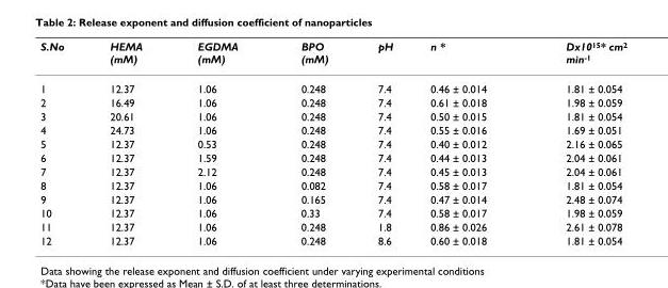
<table><thead><tr><td>S.No</td><td>HEMA (mM)</td><td>EGDMA (mM)</td><td>BPO (mM)</td><td>pH</td><td>n *</td><td>Dx10<sup>15</sup>* cm<sup>2</sup> min<sup>-1</sup></td></tr></thead><tbody><tr><td>1</td><td>12.37</td><td>1.06</td><td>0.248</td><td>7.4</td><td>0.46 ± 0.014</td><td>1.81 ± 0.054</td></tr><tr><td>2</td><td>16.49</td><td>1.06</td><td>0.248</td><td>7.4</td><td>0.61 ± 0.018</td><td>1.98 ± 0.059</td></tr><tr><td>3</td><td>20.61</td><td>1.06</td><td>0.248</td><td>7.4</td><td>0.50 ± 0.015</td><td>1.81 ± 0.054</td></tr><tr><td>4</td><td>24.73</td><td>1.06</td><td>0.248</td><td>7.4</td><td>0.55 ± 0.016</td><td>1.69 ± 0.051</td></tr><tr><td>5</td><td>12.37</td><td>0.53</td><td>0.248</td><td>7.4</td><td>0.40 ± 0.012</td><td>2.16 ± 0.065</td></tr><tr><td>6</td><td>12.37</td><td>1.59</td><td>0.248</td><td>7.4</td><td>0.44 ± 0.013</td><td>2.04 ± 0.061</td></tr><tr><td>7</td><td>12.37</td><td>2.12</td><td>0.248</td><td>7.4</td><td>0.45 ± 0.013</td><td>2.04 ± 0.061</td></tr><tr><td>8</td><td>12.37</td><td>1.06</td><td>0.082</td><td>7.4</td><td>0.58 ± 0.017</td><td>1.81 ± 0.054</td></tr><tr><td>9</td><td>12.37</td><td>1.06</td><td>0.165</td><td>7.4</td><td>0.47 ± 0.014</td><td>2.48 ± 0.074</td></tr><tr><td>10</td><td>12.37</td><td>1.06</td><td>0.33</td><td>7.4</td><td>0.58 ± 0.017</td><td>1.98 ± 0.059</td></tr><tr><td>11</td><td>12.37</td><td>1.06</td><td>0.248</td><td>1.8</td><td>0.86 ± 0.026</td><td>2.61 ± 0.078</td></tr><tr><td>12</td><td>12.37</td><td>1.06</td><td>0.248</td><td>8.6</td><td>0.60 ± 0.018</td><td>1.81 ± 0.054</td></tr></tbody></table>